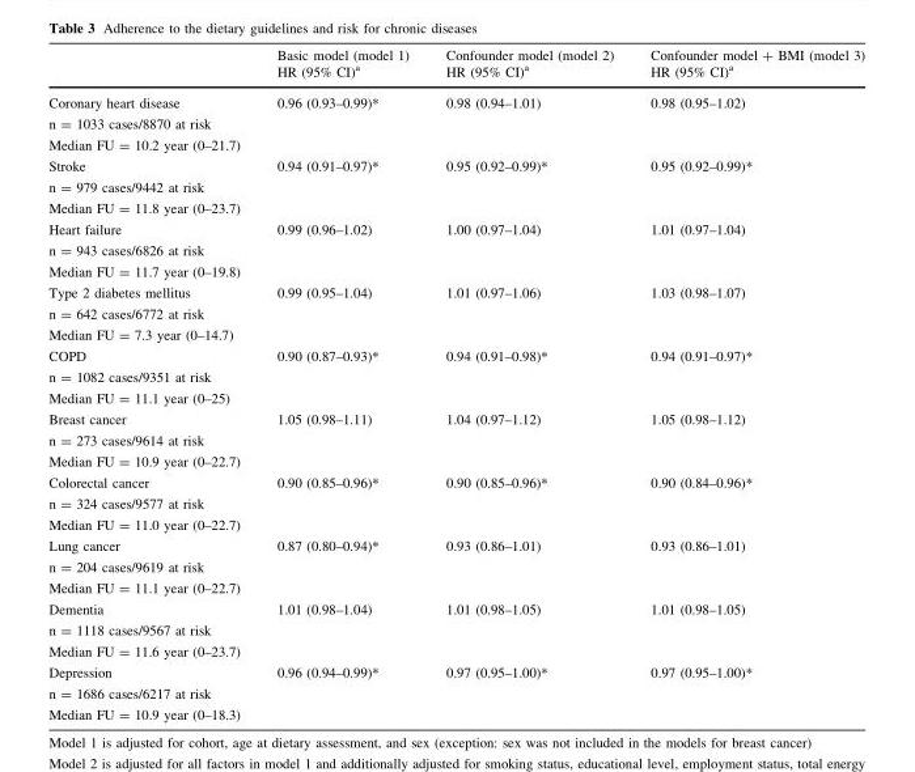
<table><thead><tr><td></td><td>Basic model (model 1) HR (95% CI)<sup>a</sup></td><td>Confounder model (model 2) HR (95% CI)<sup>a</sup></td><td>Confounder model + BMI (model 3) HR (95% CI)<sup>a</sup></td></tr></thead><tbody><tr><td>Coronary heart disease n = 1033 cases/8870 at risk Median FU = 10.2 year (0–21.7)</td><td>0.96 (0.93–0.99)*</td><td>0.98 (0.94–1.01)</td><td>0.98 (0.95–1.02)</td></tr><tr><td>Stroke n = 979 cases/9442 at risk Median FU = 11.8 year (0–23.7)</td><td>0.94 (0.91–0.97)*</td><td>0.95 (0.92–0.99)*</td><td>0.95 (0.92–0.99)*</td></tr><tr><td>Heart failure n = 943 cases/6826 at risk Median FU = 11.7 year (0–19.8)</td><td>0.99 (0.96–1.02)</td><td>1.00 (0.97–1.04)</td><td>1.01 (0.97–1.04)</td></tr><tr><td>Type 2 diabetes mellitus n = 642 cases/6772 at risk Median FU = 7.3 year (0–14.7)</td><td>0.99 (0.95–1.04)</td><td>1.01 (0.97–1.06)</td><td>1.03 (0.98–1.07)</td></tr><tr><td>COPD n = 1082 cases/9351 at risk Median FU = 11.1 year (0–25)</td><td>0.90 (0.87–0.93)*</td><td>0.94 (0.91–0.98)*</td><td>0.94 (0.91–0.97)*</td></tr><tr><td>Breast cancer n = 273 cases/9614 at risk Median FU = 10.9 year (0–22.7)</td><td>1.05 (0.98–1.11)</td><td>1.04 (0.97–1.12)</td><td>1.05 (0.98–1.12)</td></tr><tr><td>Colorectal cancer n = 324 cases/9577 at risk Median FU = 11.0 year (0–22.7)</td><td>0.90 (0.85–0.96)*</td><td>0.90 (0.85–0.96)*</td><td>0.90 (0.84–0.96)*</td></tr><tr><td>Lung cancer n = 204 cases/9619 at risk Median FU = 11.1 year (0–22.7)</td><td>0.87 (0.80–0.94)*</td><td>0.93 (0.86–1.01)</td><td>0.93 (0.86–1.01)</td></tr><tr><td>Dementia n = 1118 cases/9567 at risk Median FU = 11.6 year (0–23.7)</td><td>1.01 (0.98–1.04)</td><td>1.01 (0.98–1.05)</td><td>1.01 (0.98–1.05)</td></tr><tr><td>Depression n = 1686 cases/6217 at risk Median FU = 10.9 year (0–18.3)</td><td>0.96 (0.94–0.99)*</td><td>0.97 (0.95–1.00)*</td><td>0.97 (0.95–1.00)*</td></tr></tbody></table>